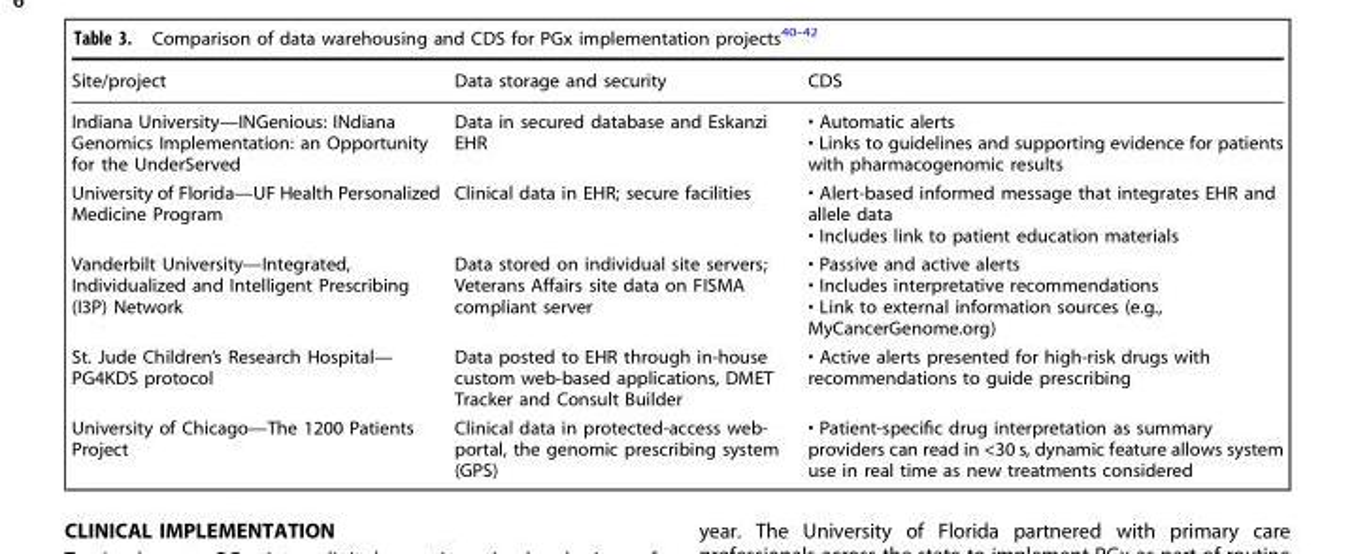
<table><thead><tr><td>Site/project</td><td>Data storage and security</td><td>CDS</td></tr></thead><tbody><tr><td>Indiana University—INGenious: INdiana Genomics Implementation: an Opportunity for the UnderServed</td><td>Data in secured database and Eskanzi EHR</td><td>• Automatic alerts • Links to guidelines and supporting evidence for patients with pharmacogenomic results</td></tr><tr><td>University of Florida—UF Health Personalized Medicine Program</td><td>Clinical data in EHR; secure facilities</td><td>• Alert-based informed message that integrates EHR and allele data • Includes link to patient education materials</td></tr><tr><td>Vanderbilt University—Integrated, Individualized and Intelligent Prescribing (I3P) Network</td><td>Data stored on individual site servers; Veterans Affairs site data on FISMA compliant server</td><td>• Passive and active alerts • Includes interpretative recommendations • Link to external information sources (e.g., MyCancerGenome.org)</td></tr><tr><td>St. Jude Children’s Research Hospital— PG4KDS protocol</td><td>Data posted to EHR through in-house custom web-based applications, DMET Tracker and Consult Builder</td><td>• Active alerts presented for high-risk drugs with recommendations to guide prescribing</td></tr><tr><td>University of Chicago—The 1200 Patients Project</td><td>Clinical data in protected-access web- portal, the genomic prescribing system (GPS)</td><td>• Patient-specific drug interpretation as summary providers can read in &lt;30 s, dynamic feature allows system use in real time as new treatments considered</td></tr></tbody></table>